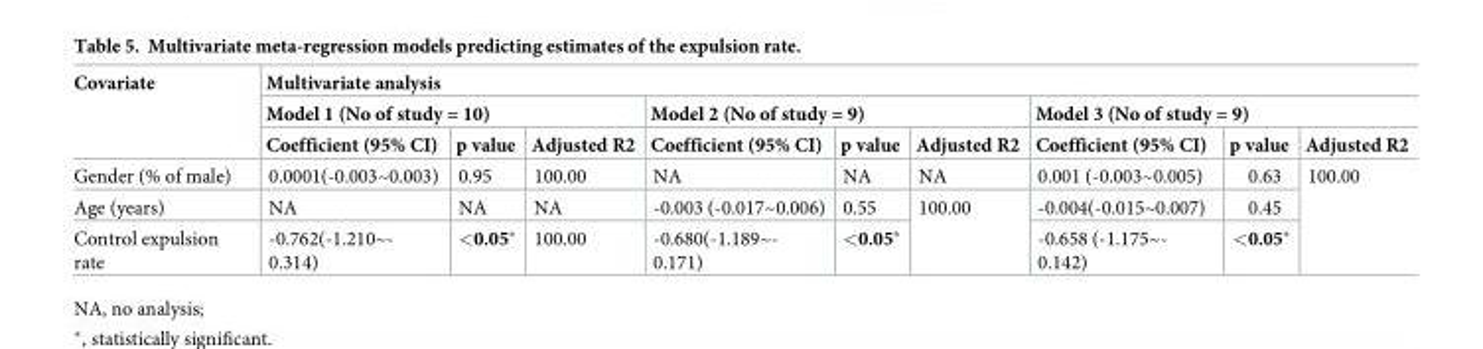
<table><thead><tr><td rowspan="3">Covariate</td><td colspan="9">Multivariate analysis</td></tr><tr><td colspan="3">Model 1 (No of study = 10)</td><td colspan="3">Model 2 (No of study = 9)</td><td colspan="3">Model 3 (No of study = 9)</td></tr><tr><td>Coefficient (95% CI)</td><td>p value</td><td>Adjusted R2</td><td>Coefficient (95% CI)</td><td>p value</td><td>Adjusted R2</td><td>Coefficient (95% CI)</td><td>p value</td><td>Adjusted R2</td></tr></thead><tbody><tr><td>Gender (% of male)</td><td>0.0001(-0.003~0.003)</td><td>0.95</td><td>100.00</td><td>NA</td><td>NA</td><td>NA</td><td>0.001 (-0.003~0.005)</td><td>0.63</td><td rowspan="3">100.00</td></tr><tr><td>Age (years)</td><td>NA</td><td>NA</td><td>NA</td><td>-0.003 (-0.017~0.006)</td><td>0.55</td><td rowspan="2">100.00</td><td>-0.004(-0.015~0.007)</td><td>0.45</td></tr><tr><td>Control expulsion rate</td><td>-0.762(-1.210~- 0.314)</td><td>&lt;0.05*</td><td>100.00</td><td>-0.680(-1.189~- 0.171)</td><td>&lt;0.05*</td><td>-0.658 (-1.175~- 0.142)</td><td>&lt;0.05*</td></tr></tbody></table>